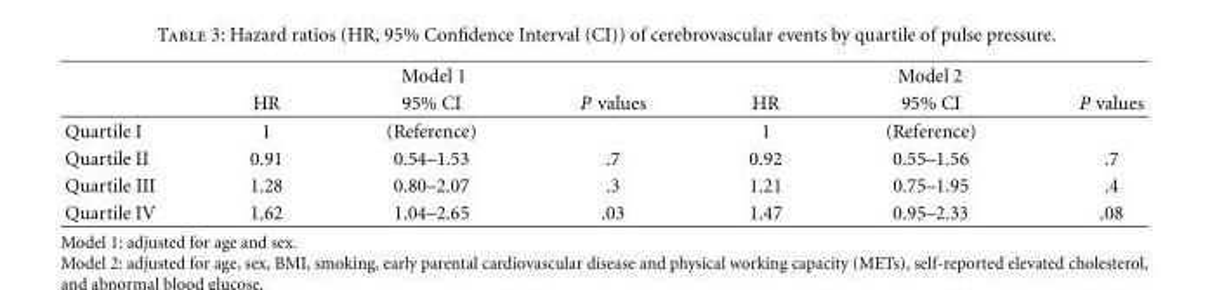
<table><thead><tr><td rowspan="2"></td><td colspan="3">Model 1</td><td colspan="3">Model 2</td></tr><tr><td>HR</td><td>95% CI</td><td>P values</td><td>HR</td><td>95% CI</td><td>P values</td></tr></thead><tbody><tr><td>Quartile I</td><td>1</td><td>(Reference)</td><td></td><td>1</td><td>(Reference)</td><td></td></tr><tr><td>Quartile II</td><td>0.91</td><td>0.54–1.53</td><td>.7</td><td>0.92</td><td>0.55–1.56</td><td>.7</td></tr><tr><td>Quartile III</td><td>1.28</td><td>0.80–2.07</td><td>.3</td><td>1.21</td><td>0.75–1.95</td><td>.4</td></tr><tr><td>Quartile IV</td><td>1.62</td><td>1.04–2.65</td><td>.03</td><td>1.47</td><td>0.95–2.33</td><td>.08</td></tr></tbody></table>